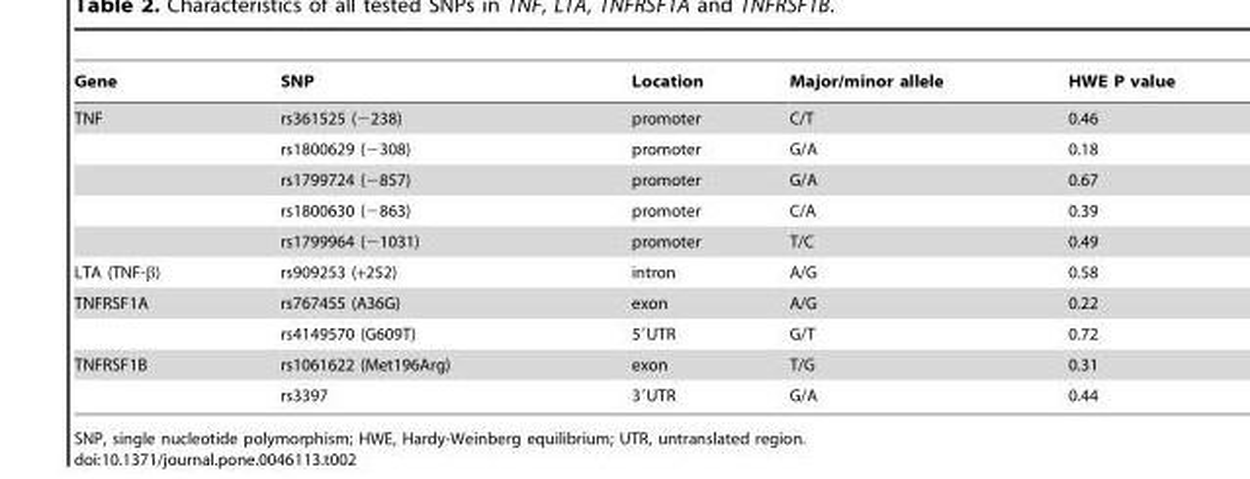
<table><thead><tr><td>Gene</td><td>SNP</td><td>Location</td><td>Major/minor allele</td><td>HWE P value</td></tr></thead><tbody><tr><td rowspan="5">TNF</td><td>rs361525 (−238)</td><td>promoter</td><td>C/T</td><td>0.46</td></tr><tr><td>rs1800629 (−308)</td><td>promoter</td><td>G/A</td><td>0.18</td></tr><tr><td>rs1799724 (−857)</td><td>promoter</td><td>G/A</td><td>0.67</td></tr><tr><td>rs1800630 (−863)</td><td>promoter</td><td>C/A</td><td>0.39</td></tr><tr><td>rs1799964 (−1031)</td><td>promoter</td><td>T/C</td><td>0.49</td></tr><tr><td>LTA (TNF-β)</td><td>rs909253 (+252)</td><td>intron</td><td>A/G</td><td>0.58</td></tr><tr><td rowspan="2">TNFRSF1A</td><td>rs767455 (A36G)</td><td>exon</td><td>A/G</td><td>0.22</td></tr><tr><td>rs4149570 (G609T)</td><td>5′UTR</td><td>G/T</td><td>0.72</td></tr><tr><td rowspan="2">TNFRSF1B</td><td>rs1061622 (Met196Arg)</td><td>exon</td><td>T/G</td><td>0.31</td></tr><tr><td>rs3397</td><td>3′UTR</td><td>G/A</td><td>0.44</td></tr></tbody></table>